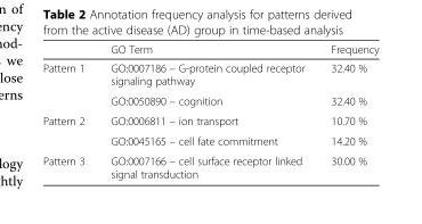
<table><thead><tr><td></td><td>GO Term</td><td>Frequency</td></tr></thead><tbody><tr><td rowspan="2">Pattern 1</td><td>GO:0007186 – G-protein coupled receptor signaling pathway</td><td>32.40 %</td></tr><tr><td>GO:0050890 – cognition</td><td>32.40 %</td></tr><tr><td rowspan="2">Pattern 2</td><td>GO:0006811 – ion transport</td><td>10.70 %</td></tr><tr><td>GO:0045165 – cell fate commitment</td><td>14.20 %</td></tr><tr><td>Pattern 3</td><td>GO:0007166 – cell surface receptor linked signal transduction</td><td>30.00 %</td></tr></tbody></table>